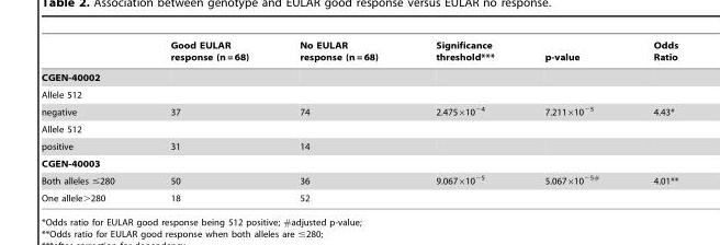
<table><thead><tr><td></td><td>Good EULAR response (n = 68)</td><td>No EULAR response (n = 68)</td><td>Significance threshold***</td><td>p-value</td><td>Odds Ratio</td></tr></thead><tbody><tr><td colspan="6">CGEN-40002</td></tr><tr><td colspan="6">Allele 512</td></tr><tr><td>negative</td><td>37</td><td>74</td><td>2.475×10<sup>−4</sup></td><td>7.211×10<sup>−5</sup></td><td>4.43*</td></tr><tr><td colspan="6">Allele 512</td></tr><tr><td>positive</td><td>31</td><td>14</td><td></td><td></td><td></td></tr><tr><td colspan="6">CGEN-40003</td></tr><tr><td>Both alleles ≤280</td><td>50</td><td>36</td><td>9.067×10<sup>−5</sup></td><td>5.067×10<sup>−5#</sup></td><td>4.01**</td></tr><tr><td>One allele&gt;280</td><td>18</td><td>52</td><td></td><td></td><td></td></tr></tbody></table>